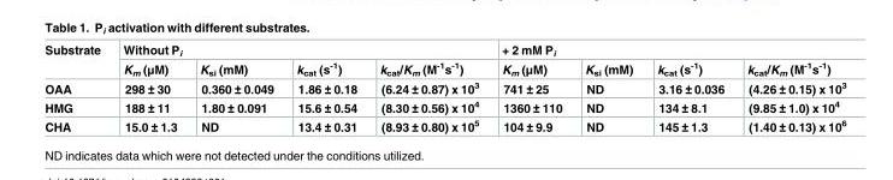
<table><thead><tr><td rowspan="2">Substrate</td><td colspan="4">Without P<sub>i</sub></td><td colspan="4">+ 2 mM P<sub>i</sub></td></tr><tr><td>K<sub>m</sub> (μM)</td><td>K<sub>si</sub> (mM)</td><td>k<sub>cat</sub> (s<sup>-1</sup>)</td><td>k<sub>cat</sub>/K<sub>m</sub> (M<sup>-1</sup>s<sup>-1</sup>)</td><td>K<sub>m</sub> (μM)</td><td>K<sub>si</sub> (mM)</td><td>k<sub>cat</sub> (s<sup>-1</sup>)</td><td>k<sub>cat</sub>/K<sub>m</sub> (M<sup>-1</sup>s<sup>-1</sup>)</td></tr></thead><tbody><tr><td>OAA</td><td>298 ± 30</td><td>0.360 ± 0.049</td><td>1.86 ± 0.18</td><td>(6.24 ± 0.87) x 10<sup>3</sup></td><td>741 ± 25</td><td>ND</td><td>3.16 ± 0.036</td><td>(4.26 ± 0.15) x 10<sup>3</sup></td></tr><tr><td>HMG</td><td>188 ± 11</td><td>1.80 ± 0.091</td><td>15.6 ± 0.54</td><td>(8.30 ± 0.56) x 10<sup>4</sup></td><td>1360 ± 110</td><td>ND</td><td>134 ± 8.1</td><td>(9.85 ± 1.0) x 10<sup>4</sup></td></tr><tr><td>CHA</td><td>15.0 ± 1.3</td><td>ND</td><td>13.4 ± 0.31</td><td>(8.93 ± 0.80) x 10<sup>5</sup></td><td>104 ± 9.9</td><td>ND</td><td>145 ± 1.3</td><td>(1.40 ± 0.13) x 10<sup>6</sup></td></tr></tbody></table>